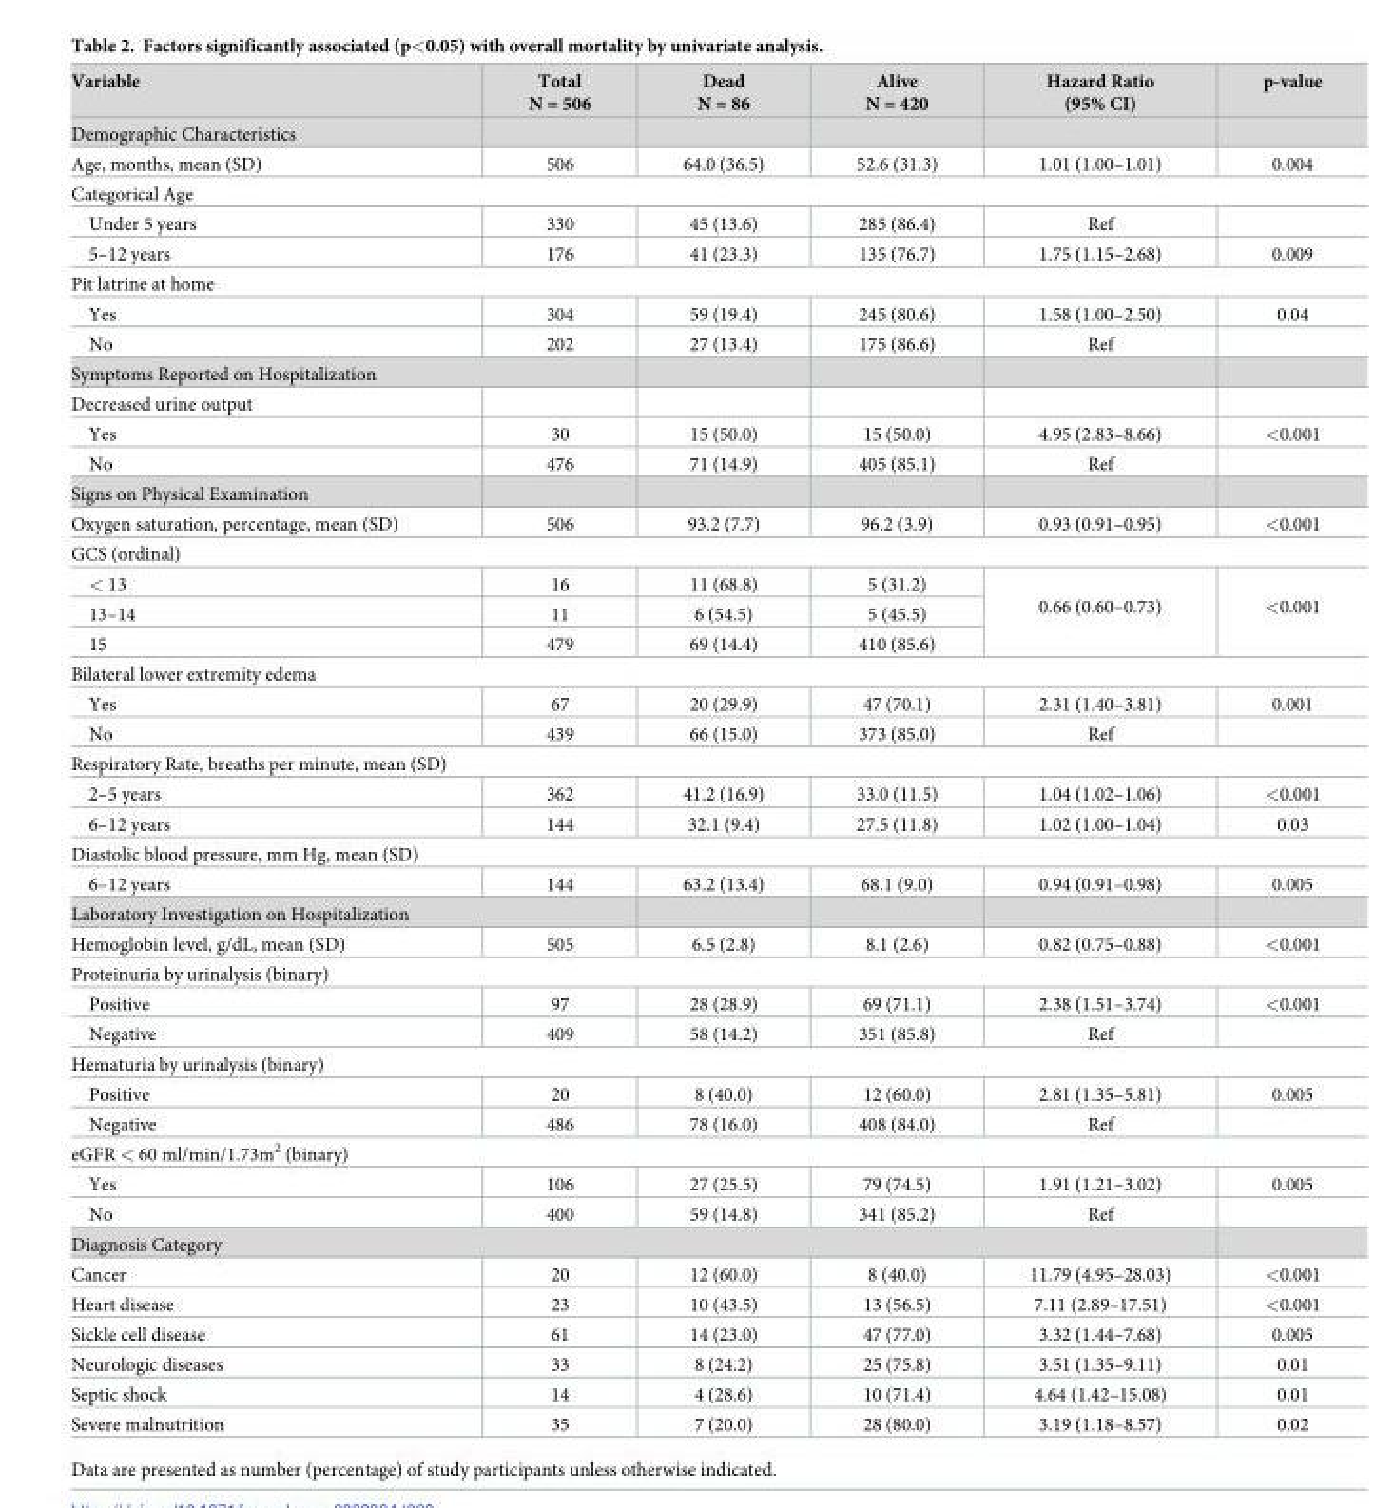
<table><thead><tr><td>Variable</td><td>Total N = 506</td><td>Dead N = 86</td><td>Alive N = 420</td><td>Hazard Ratio (95% CI)</td><td>p-value</td></tr></thead><tbody><tr><td colspan="6">Demographic Characteristics</td></tr><tr><td>Age, months, mean (SD)</td><td>506</td><td>64.0 (36.5)</td><td>52.6 (31.3)</td><td>1.01 (1.00–1.01)</td><td>0.004</td></tr><tr><td colspan="6">Categorical Age</td></tr><tr><td>Under 5 years</td><td>330</td><td>45 (13.6)</td><td>285 (86.4)</td><td>Ref</td><td></td></tr><tr><td>5–12 years</td><td>176</td><td>41 (23.3)</td><td>135 (76.7)</td><td>1.75 (1.15–2.68)</td><td>0.009</td></tr><tr><td colspan="6">Pit latrine at home</td></tr><tr><td>Yes</td><td>304</td><td>59 (19.4)</td><td>245 (80.6)</td><td>1.58 (1.00–2.50)</td><td>0.04</td></tr><tr><td>No</td><td>202</td><td>27 (13.4)</td><td>175 (86.6)</td><td>Ref</td><td></td></tr><tr><td colspan="6">Symptoms Reported on Hospitalization</td></tr><tr><td colspan="6">Decreased urine output</td></tr><tr><td>Yes</td><td>30</td><td>15 (50.0)</td><td>15 (50.0)</td><td>4.95 (2.83–8.66)</td><td>&lt;0.001</td></tr><tr><td>No</td><td>476</td><td>71 (14.9)</td><td>405 (85.1)</td><td>Ref</td><td></td></tr><tr><td colspan="6">Signs on Physical Examination</td></tr><tr><td>Oxygen saturation, percentage, mean (SD)</td><td>506</td><td>93.2 (7.7)</td><td>96.2 (3.9)</td><td>0.93 (0.91–0.95)</td><td>&lt;0.001</td></tr><tr><td colspan="6">GCS (ordinal)</td></tr><tr><td>&lt; 13</td><td>16</td><td>11 (68.8)</td><td>5 (31.2)</td><td rowspan="3">0.66 (0.60–0.73)</td><td rowspan="3">&lt;0.001</td></tr><tr><td>13–14</td><td>11</td><td>6 (54.5)</td><td>5 (45.5)</td></tr><tr><td>15</td><td>479</td><td>69 (14.4)</td><td>410 (85.6)</td></tr><tr><td colspan="6">Bilateral lower extremity edema</td></tr><tr><td>Yes</td><td>67</td><td>20 (29.9)</td><td>47 (70.1)</td><td>2.31 (1.40–3.81)</td><td>0.001</td></tr><tr><td>No</td><td>439</td><td>66 (15.0)</td><td>373 (85.0)</td><td>Ref</td><td></td></tr><tr><td colspan="6">Respiratory Rate, breaths per minute, mean (SD)</td></tr><tr><td>2–5 years</td><td>362</td><td>41.2 (16.9)</td><td>33.0 (11.5)</td><td>1.04 (1.02–1.06)</td><td>&lt;0.001</td></tr><tr><td>6–12 years</td><td>144</td><td>32.1 (9.4)</td><td>27.5 (11.8)</td><td>1.02 (1.00–1.04)</td><td>0.03</td></tr><tr><td colspan="6">Diastolic blood pressure, mm Hg, mean (SD)</td></tr><tr><td>6–12 years</td><td>144</td><td>63.2 (13.4)</td><td>68.1 (9.0)</td><td>0.94 (0.91–0.98)</td><td>0.005</td></tr><tr><td colspan="6">Laboratory Investigation on Hospitalization</td></tr><tr><td>Hemoglobin level, g/dL, mean (SD)</td><td>505</td><td>6.5 (2.8)</td><td>8.1 (2.6)</td><td>0.82 (0.75–0.88)</td><td>&lt;0.001</td></tr><tr><td colspan="6">Proteinuria by urinalysis (binary)</td></tr><tr><td>Positive</td><td>97</td><td>28 (28.9)</td><td>69 (71.1)</td><td>2.38 (1.51–3.74)</td><td>&lt;0.001</td></tr><tr><td>Negative</td><td>409</td><td>58 (14.2)</td><td>351 (85.8)</td><td>Ref</td><td></td></tr><tr><td colspan="6">Hematuria by urinalysis (binary)</td></tr><tr><td>Positive</td><td>20</td><td>8 (40.0)</td><td>12 (60.0)</td><td>2.81 (1.35–5.81)</td><td>0.005</td></tr><tr><td>Negative</td><td>486</td><td>78 (16.0)</td><td>408 (84.0)</td><td>Ref</td><td></td></tr><tr><td colspan="6">eGFR &lt; 60 ml/min/1.73m<sup>2</sup> (binary)</td></tr><tr><td>Yes</td><td>106</td><td>27 (25.5)</td><td>79 (74.5)</td><td>1.91 (1.21–3.02)</td><td>0.005</td></tr><tr><td>No</td><td>400</td><td>59 (14.8)</td><td>341 (85.2)</td><td>Ref</td><td></td></tr><tr><td colspan="6">Diagnosis Category</td></tr><tr><td>Cancer</td><td>20</td><td>12 (60.0)</td><td>8 (40.0)</td><td>11.79 (4.95–28.03)</td><td>&lt;0.001</td></tr><tr><td>Heart disease</td><td>23</td><td>10 (43.5)</td><td>13 (56.5)</td><td>7.11 (2.89–17.51)</td><td>&lt;0.001</td></tr><tr><td>Sickle cell disease</td><td>61</td><td>14 (23.0)</td><td>47 (77.0)</td><td>3.32 (1.44–7.68)</td><td>0.005</td></tr><tr><td>Neurologic diseases</td><td>33</td><td>8 (24.2)</td><td>25 (75.8)</td><td>3.51 (1.35–9.11)</td><td>0.01</td></tr><tr><td>Septic shock</td><td>14</td><td>4 (28.6)</td><td>10 (71.4)</td><td>4.64 (1.42–15.08)</td><td>0.01</td></tr><tr><td>Severe malnutrition</td><td>35</td><td>7 (20.0)</td><td>28 (80.0)</td><td>3.19 (1.18–8.57)</td><td>0.02</td></tr></tbody></table>